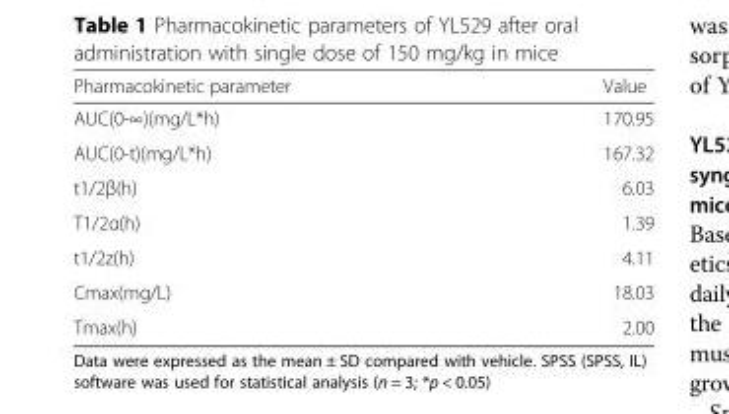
<table><thead><tr><td>Pharmacokinetic parameter</td><td>Value</td></tr></thead><tbody><tr><td>AUC(0-∞)(mg/L*h)</td><td>170.95</td></tr><tr><td>AUC(0-t)(mg/L*h)</td><td>167.32</td></tr><tr><td>t1/2β(h)</td><td>6.03</td></tr><tr><td>T1/2α(h)</td><td>1.39</td></tr><tr><td>t1/2z(h)</td><td>4.11</td></tr><tr><td>Cmax(mg/L)</td><td>18.03</td></tr><tr><td>Tmax(h)</td><td>2.00</td></tr></tbody></table>